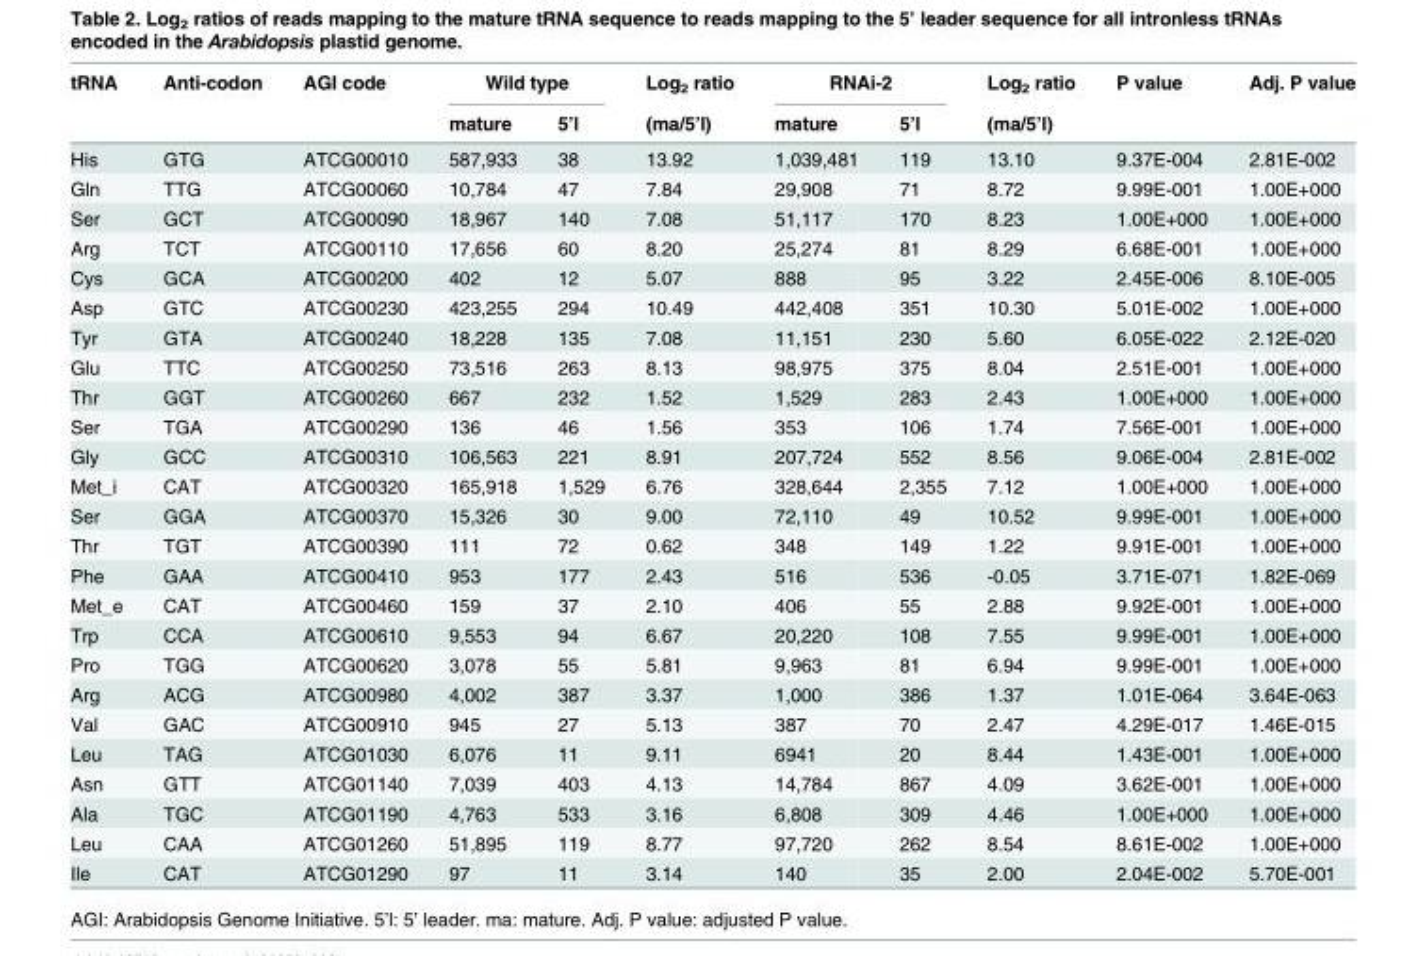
<table><thead><tr><td rowspan="2">tRNA</td><td rowspan="2">Anti-codon</td><td rowspan="2">AGI code</td><td colspan="2">Wild type</td><td rowspan="2">Log<sub>2</sub> ratio (ma/5’l)</td><td colspan="2">RNAi-2</td><td rowspan="2">Log<sub>2</sub> ratio (ma/5’l)</td><td rowspan="2">P value</td><td rowspan="2">Adj. P value</td></tr><tr><td>mature</td><td>5’l</td><td>mature</td><td>5’l</td></tr></thead><tbody><tr><td>His</td><td>GTG</td><td>ATCG00010</td><td>587,933</td><td>38</td><td>13.92</td><td>1,039,481</td><td>119</td><td>13.10</td><td>9.37E-004</td><td>2.81E-002</td></tr><tr><td>Gln</td><td>TTG</td><td>ATCG00060</td><td>10,784</td><td>47</td><td>7.84</td><td>29,908</td><td>71</td><td>8.72</td><td>9.99E-001</td><td>1.00E+000</td></tr><tr><td>Ser</td><td>GCT</td><td>ATCG00090</td><td>18,967</td><td>140</td><td>7.08</td><td>51,117</td><td>170</td><td>8.23</td><td>1.00E+000</td><td>1.00E+000</td></tr><tr><td>Arg</td><td>TCT</td><td>ATCG00110</td><td>17,656</td><td>60</td><td>8.20</td><td>25,274</td><td>81</td><td>8.29</td><td>6.68E-001</td><td>1.00E+000</td></tr><tr><td>Cys</td><td>GCA</td><td>ATCG00200</td><td>402</td><td>12</td><td>5.07</td><td>888</td><td>95</td><td>3.22</td><td>2.45E-006</td><td>8.10E-005</td></tr><tr><td>Asp</td><td>GTC</td><td>ATCG00230</td><td>423,255</td><td>294</td><td>10.49</td><td>442,408</td><td>351</td><td>10.30</td><td>5.01E-002</td><td>1.00E+000</td></tr><tr><td>Tyr</td><td>GTA</td><td>ATCG00240</td><td>18,228</td><td>135</td><td>7.08</td><td>11,151</td><td>230</td><td>5.60</td><td>6.05E-022</td><td>2.12E-020</td></tr><tr><td>Glu</td><td>TTC</td><td>ATCG00250</td><td>73,516</td><td>263</td><td>8.13</td><td>98,975</td><td>375</td><td>8.04</td><td>2.51E-001</td><td>1.00E+000</td></tr><tr><td>Thr</td><td>GGT</td><td>ATCG00260</td><td>667</td><td>232</td><td>1.52</td><td>1,529</td><td>283</td><td>2.43</td><td>1.00E+000</td><td>1.00E+000</td></tr><tr><td>Ser</td><td>TGA</td><td>ATCG00290</td><td>136</td><td>46</td><td>1.56</td><td>353</td><td>106</td><td>1.74</td><td>7.56E-001</td><td>1.00E+000</td></tr><tr><td>Gly</td><td>GCC</td><td>ATCG00310</td><td>106,563</td><td>221</td><td>8.91</td><td>207,724</td><td>552</td><td>8.56</td><td>9.06E-004</td><td>2.81E-002</td></tr><tr><td>Met_i</td><td>CAT</td><td>ATCG00320</td><td>165,918</td><td>1,529</td><td>6.76</td><td>328,644</td><td>2,355</td><td>7.12</td><td>1.00E+000</td><td>1.00E+000</td></tr><tr><td>Ser</td><td>GGA</td><td>ATCG00370</td><td>15,326</td><td>30</td><td>9.00</td><td>72,110</td><td>49</td><td>10.52</td><td>9.99E-001</td><td>1.00E+000</td></tr><tr><td>Thr</td><td>TGT</td><td>ATCG00390</td><td>111</td><td>72</td><td>0.62</td><td>348</td><td>149</td><td>1.22</td><td>9.91E-001</td><td>1.00E+000</td></tr><tr><td>Phe</td><td>GAA</td><td>ATCG00410</td><td>953</td><td>177</td><td>2.43</td><td>516</td><td>536</td><td>-0.05</td><td>3.71E-071</td><td>1.82E-069</td></tr><tr><td>Met_e</td><td>CAT</td><td>ATCG00460</td><td>159</td><td>37</td><td>2.10</td><td>406</td><td>55</td><td>2.88</td><td>9.92E-001</td><td>1.00E+000</td></tr><tr><td>Trp</td><td>CCA</td><td>ATCG00610</td><td>9,553</td><td>94</td><td>6.67</td><td>20,220</td><td>108</td><td>7.55</td><td>9.99E-001</td><td>1.00E+000</td></tr><tr><td>Pro</td><td>TGG</td><td>ATCG00620</td><td>3,078</td><td>55</td><td>5.81</td><td>9,963</td><td>81</td><td>6.94</td><td>9.99E-001</td><td>1.00E+000</td></tr><tr><td>Arg</td><td>ACG</td><td>ATCG00980</td><td>4,002</td><td>387</td><td>3.37</td><td>1,000</td><td>386</td><td>1.37</td><td>1.01E-064</td><td>3.64E-063</td></tr><tr><td>Val</td><td>GAC</td><td>ATCG00910</td><td>945</td><td>27</td><td>5.13</td><td>387</td><td>70</td><td>2.47</td><td>4.29E-017</td><td>1.46E-015</td></tr><tr><td>Leu</td><td>TAG</td><td>ATCG01030</td><td>6,076</td><td>11</td><td>9.11</td><td>6941</td><td>20</td><td>8.44</td><td>1.43E-001</td><td>1.00E+000</td></tr><tr><td>Asn</td><td>GTT</td><td>ATCG01140</td><td>7,039</td><td>403</td><td>4.13</td><td>14,784</td><td>867</td><td>4.09</td><td>3.62E-001</td><td>1.00E+000</td></tr><tr><td>Ala</td><td>TGC</td><td>ATCG01190</td><td>4,763</td><td>533</td><td>3.16</td><td>6,808</td><td>309</td><td>4.46</td><td>1.00E+000</td><td>1.00E+000</td></tr><tr><td>Leu</td><td>CAA</td><td>ATCG01260</td><td>51,895</td><td>119</td><td>8.77</td><td>97,720</td><td>262</td><td>8.54</td><td>8.61E-002</td><td>1.00E+000</td></tr><tr><td>Ile</td><td>CAT</td><td>ATCG01290</td><td>97</td><td>11</td><td>3.14</td><td>140</td><td>35</td><td>2.00</td><td>2.04E-002</td><td>5.70E-001</td></tr></tbody></table>